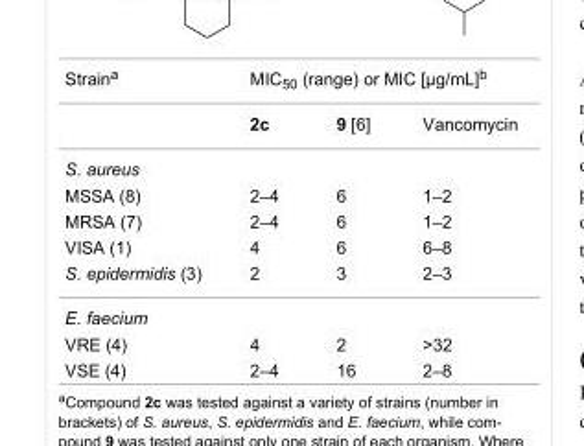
<table><tbody><tr><td rowspan="2">Strain<sup>a</sup></td><td colspan="3">MIC<sub>50</sub> (range) or MIC [μg/mL]<sup>b</sup></td></tr><tr><td>2c</td><td>9 [6]</td><td>Vancomycin</td></tr><tr><td colspan="4">S. aureus</td></tr><tr><td>MSSA (8)</td><td>2–4</td><td>6</td><td>1–2</td></tr><tr><td>MRSA (7)</td><td>2–4</td><td>6</td><td>1–2</td></tr><tr><td>VISA (1)</td><td>4</td><td>6</td><td>6–8</td></tr><tr><td>S. epidermidis (3)</td><td>2</td><td>3</td><td>2–3</td></tr><tr><td colspan="4">E. faecium</td></tr><tr><td>VRE (4)</td><td>4</td><td>2</td><td>&gt;32</td></tr><tr><td>VSE (4)</td><td>2–4</td><td>16</td><td>2–8</td></tr></tbody></table>